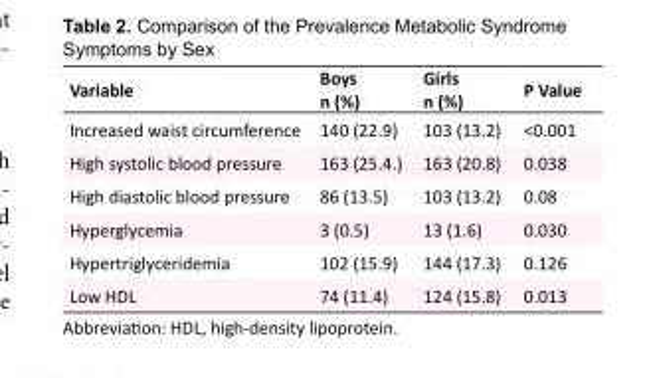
<table><tbody><tr><td>Variable</td><td>Boys n (%)</td><td>Girls n (%)</td><td>P Value</td></tr><tr><td>Increased waist circumference</td><td>140 (22.9)</td><td>103 (13.2)</td><td>&lt;0.001</td></tr><tr><td>High systolic blood pressure</td><td>163 (25.4.)</td><td>163 (20.8)</td><td>0.038</td></tr><tr><td>High diastolic blood pressure</td><td>86 (13.5)</td><td>103 (13.2)</td><td>0.08</td></tr><tr><td>Hyperglycemia</td><td>3 (0.5)</td><td>13 (1.6)</td><td>0.030</td></tr><tr><td>Hypertriglyceridemia</td><td>102 (15.9)</td><td>144 (17.3)</td><td>0.126</td></tr><tr><td>Low HDL</td><td>74 (11.4)</td><td>124 (15.8)</td><td>0.013</td></tr></tbody></table>